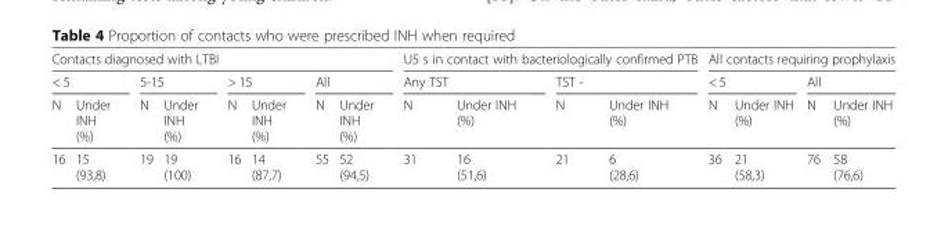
<table><thead><tr><td colspan="8">Contacts diagnosed with LTBI</td><td colspan="4">U5 s in contact with bacteriologically confirmed PTB</td><td colspan="4">All contacts requiring prophylaxis</td></tr><tr><td colspan="2">&lt; 5</td><td colspan="2">5-15</td><td colspan="2">&gt; 15</td><td colspan="2">All</td><td colspan="2">Any TST</td><td colspan="2">TST -</td><td colspan="2">&lt; 5</td><td colspan="2">All</td></tr><tr><td>N</td><td>Under INH (%)</td><td>N</td><td>Under INH (%)</td><td>N</td><td>Under INH (%)</td><td>N</td><td>Under INH (%)</td><td>N</td><td>Under INH (%)</td><td>N</td><td>Under INH (%)</td><td>N</td><td>Under INH (%)</td><td>N</td><td>Under INH (%)</td></tr></thead><tbody><tr><td>16</td><td>15 (93,8)</td><td>19</td><td>19 (100)</td><td>16</td><td>14 (87,7)</td><td>55</td><td>52 (94,5)</td><td>31</td><td>16 (51,6)</td><td>21</td><td>6 (28,6)</td><td>36</td><td>21 (58,3)</td><td>76</td><td>58 (76,6)</td></tr></tbody></table>